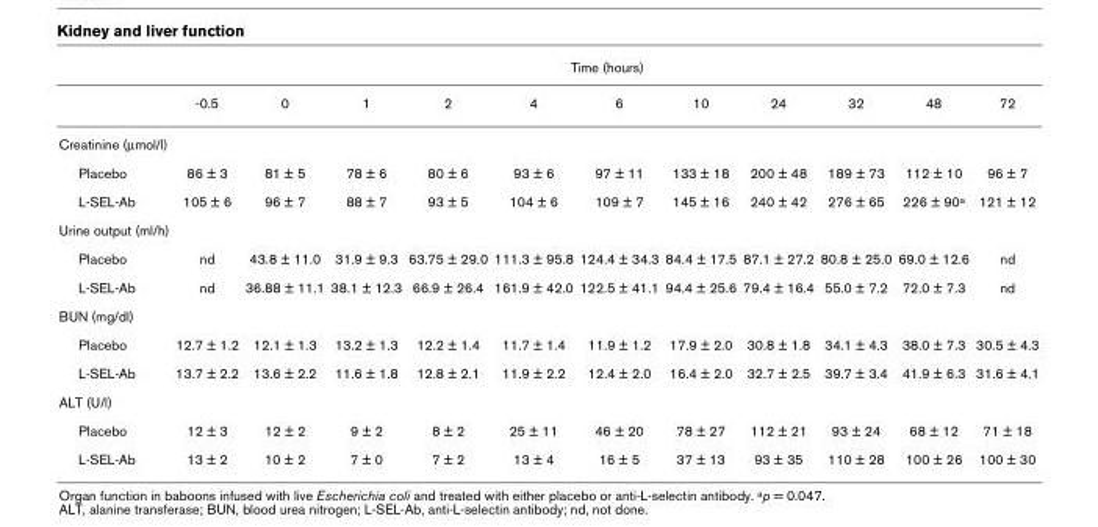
<table><thead><tr><td rowspan="2"></td><td colspan="11">Time (hours)</td></tr><tr><td>-0.5</td><td>0</td><td>1</td><td>2</td><td>4</td><td>6</td><td>10</td><td>24</td><td>32</td><td>48</td><td>72</td></tr></thead><tbody><tr><td colspan="12">Creatinine (µmol/l)</td></tr><tr><td>Placebo</td><td>86 ± 3</td><td>81 ± 5</td><td>78 ± 6</td><td>80 ± 6</td><td>93 ± 6</td><td>97 ± 11</td><td>133 ± 18</td><td>200 ± 48</td><td>189 ± 73</td><td>112 ± 10</td><td>96 ± 7</td></tr><tr><td>L-SEL-Ab</td><td>105 ± 6</td><td>96 ± 7</td><td>88 ± 7</td><td>93 ± 5</td><td>104 ± 6</td><td>109 ± 7</td><td>145 ± 16</td><td>240 ± 42</td><td>276 ± 65</td><td>226 ± 90a</td><td>121 ± 12</td></tr><tr><td colspan="12">Urine output (ml/h)</td></tr><tr><td>Placebo</td><td>nd</td><td>43.8 ± 11.0</td><td>31.9 ± 9.3</td><td>63.75 ± 29.0</td><td>111.3 ± 95.8</td><td>124.4 ± 34.3</td><td>84.4 ± 17.5</td><td>87.1 ± 27.2</td><td>80.8 ± 25.0</td><td>69.0 ± 12.6</td><td>nd</td></tr><tr><td>L-SEL-Ab</td><td>nd</td><td>36.88 ± 11.1</td><td>38.1 ± 12.3</td><td>66.9 ± 26.4</td><td>161.9 ± 42.0</td><td>122.5 ± 41.1</td><td>94.4 ± 25.6</td><td>79.4 ± 16.4</td><td>55.0 ± 7.2</td><td>72.0 ± 7.3</td><td>nd</td></tr><tr><td colspan="12">BUN (mg/dl)</td></tr><tr><td>Placebo</td><td>12.7 ± 1.2</td><td>12.1 ± 1.3</td><td>13.2 ± 1.3</td><td>12.2 ± 1.4</td><td>11.7 ± 1.4</td><td>11.9 ± 1.2</td><td>17.9 ± 2.0</td><td>30.8 ± 1.8</td><td>34.1 ± 4.3</td><td>38.0 ± 7.3</td><td>30.5 ± 4.3</td></tr><tr><td>L-SEL-Ab</td><td>13.7 ± 2.2</td><td>13.6 ± 2.2</td><td>11.6 ± 1.8</td><td>12.8 ± 2.1</td><td>11.9 ± 2.2</td><td>12.4 ± 2.0</td><td>16.4 ± 2.0</td><td>32.7 ± 2.5</td><td>39.7 ± 3.4</td><td>41.9 ± 6.3</td><td>31.6 ± 4.1</td></tr><tr><td colspan="12">ALT (U/l)</td></tr><tr><td>Placebo</td><td>12 ± 3</td><td>12 ± 2</td><td>9 ± 2</td><td>8 ± 2</td><td>25 ± 11</td><td>46 ± 20</td><td>78 ± 27</td><td>112 ± 21</td><td>93 ± 24</td><td>68 ± 12</td><td>71 ± 18</td></tr><tr><td>L-SEL-Ab</td><td>13 ± 2</td><td>10 ± 2</td><td>7 ± 0</td><td>7 ± 2</td><td>13 ± 4</td><td>16 ± 5</td><td>37 ± 13</td><td>93 ± 35</td><td>110 ± 28</td><td>100 ± 26</td><td>100 ± 30</td></tr></tbody></table>